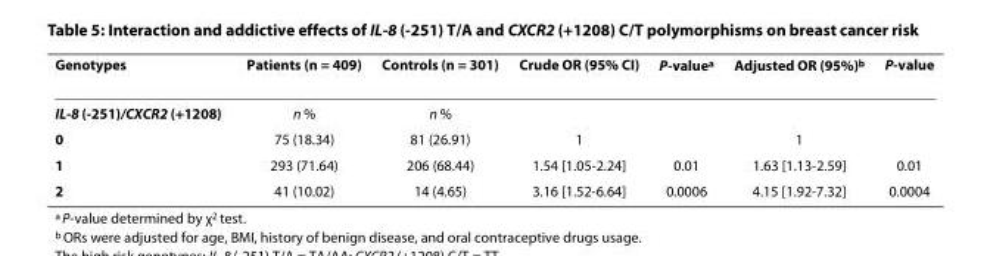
<table><thead><tr><td>Genotypes</td><td>Patients (n = 409)</td><td>Controls (n = 301)</td><td>Crude OR (95% CI)</td><td>P-value<sup>a</sup></td><td>Adjusted OR (95%)<sup>b</sup></td><td>P-value</td></tr></thead><tbody><tr><td>IL-8 (-251)/CXCR2 (+1208)</td><td>n %</td><td>n %</td><td></td><td></td><td></td><td></td></tr><tr><td>0</td><td>75 (18.34)</td><td>81 (26.91)</td><td>1</td><td></td><td>1</td><td></td></tr><tr><td>1</td><td>293 (71.64)</td><td>206 (68.44)</td><td>1.54 [1.05-2.24]</td><td>0.01</td><td>1.63 [1.13-2.59]</td><td>0.01</td></tr><tr><td>2</td><td>41 (10.02)</td><td>14 (4.65)</td><td>3.16 [1.52-6.64]</td><td>0.0006</td><td>4.15 [1.92-7.32]</td><td>0.0004</td></tr></tbody></table>